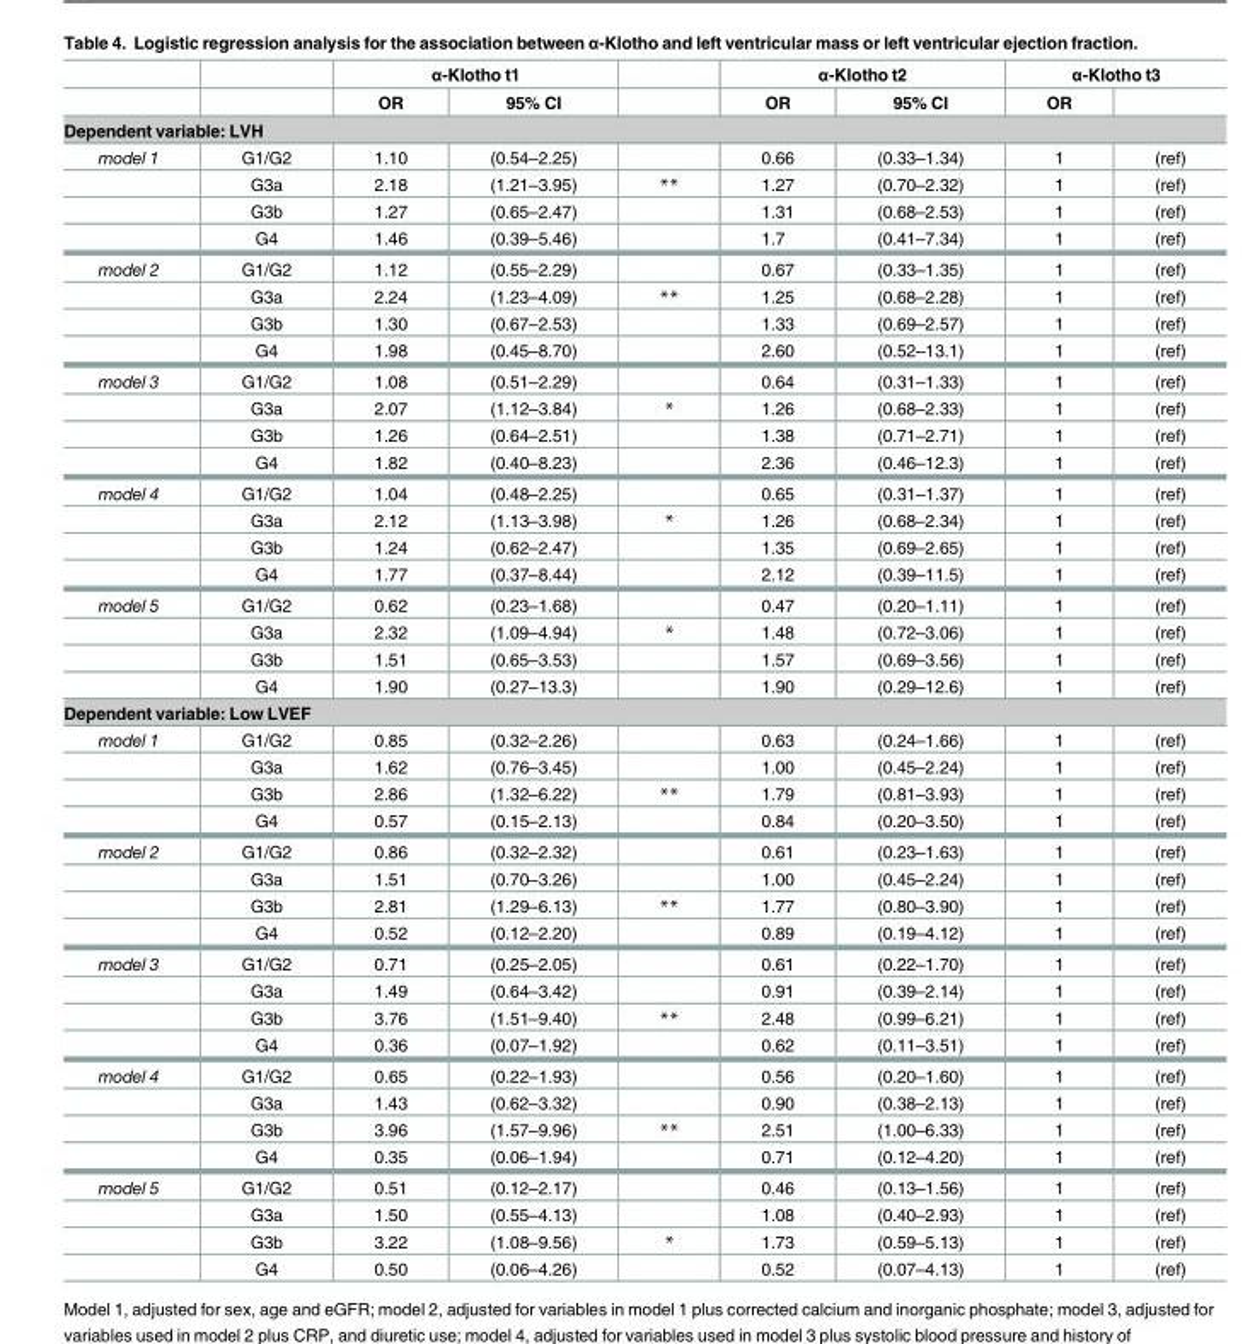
<table><thead><tr><td rowspan="2"></td><td rowspan="2"></td><td colspan="2">α-Klotho t1</td><td rowspan="2"></td><td colspan="2">α-Klotho t2</td><td colspan="2">α-Klotho t3</td></tr><tr><td>OR</td><td>95% CI</td><td>OR</td><td>95% CI</td><td>OR</td><td></td></tr></thead><tbody><tr><td colspan="9">Dependent variable: LVH</td></tr><tr><td rowspan="4">model 1</td><td>G1/G2</td><td>1.10</td><td>(0.54–2.25)</td><td></td><td>0.66</td><td>(0.33–1.34)</td><td>1</td><td>(ref)</td></tr><tr><td>G3a</td><td>2.18</td><td>(1.21–3.95)</td><td>**</td><td>1.27</td><td>(0.70–2.32)</td><td>1</td><td>(ref)</td></tr><tr><td>G3b</td><td>1.27</td><td>(0.65–2.47)</td><td></td><td>1.31</td><td>(0.68–2.53)</td><td>1</td><td>(ref)</td></tr><tr><td>G4</td><td>1.46</td><td>(0.39–5.46)</td><td></td><td>1.7</td><td>(0.41–7.34)</td><td>1</td><td>(ref)</td></tr><tr><td rowspan="4">model 2</td><td>G1/G2</td><td>1.12</td><td>(0.55–2.29)</td><td></td><td>0.67</td><td>(0.33–1.35)</td><td>1</td><td>(ref)</td></tr><tr><td>G3a</td><td>2.24</td><td>(1.23–4.09)</td><td>**</td><td>1.25</td><td>(0.68–2.28)</td><td>1</td><td>(ref)</td></tr><tr><td>G3b</td><td>1.30</td><td>(0.67–2.53)</td><td></td><td>1.33</td><td>(0.69–2.57)</td><td>1</td><td>(ref)</td></tr><tr><td>G4</td><td>1.98</td><td>(0.45–8.70)</td><td></td><td>2.60</td><td>(0.52–13.1)</td><td>1</td><td>(ref)</td></tr><tr><td rowspan="4">model 3</td><td>G1/G2</td><td>1.08</td><td>(0.51–2.29)</td><td></td><td>0.64</td><td>(0.31–1.33)</td><td>1</td><td>(ref)</td></tr><tr><td>G3a</td><td>2.07</td><td>(1.12–3.84)</td><td>*</td><td>1.26</td><td>(0.68–2.33)</td><td>1</td><td>(ref)</td></tr><tr><td>G3b</td><td>1.26</td><td>(0.64–2.51)</td><td></td><td>1.38</td><td>(0.71–2.71)</td><td>1</td><td>(ref)</td></tr><tr><td>G4</td><td>1.82</td><td>(0.40–8.23)</td><td></td><td>2.36</td><td>(0.46–12.3)</td><td>1</td><td>(ref)</td></tr><tr><td rowspan="4">model 4</td><td>G1/G2</td><td>1.04</td><td>(0.48–2.25)</td><td></td><td>0.65</td><td>(0.31–1.37)</td><td>1</td><td>(ref)</td></tr><tr><td>G3a</td><td>2.12</td><td>(1.13–3.98)</td><td>*</td><td>1.26</td><td>(0.68–2.34)</td><td>1</td><td>(ref)</td></tr><tr><td>G3b</td><td>1.24</td><td>(0.62–2.47)</td><td></td><td>1.35</td><td>(0.69–2.65)</td><td>1</td><td>(ref)</td></tr><tr><td>G4</td><td>1.77</td><td>(0.37–8.44)</td><td></td><td>2.12</td><td>(0.39–11.5)</td><td>1</td><td>(ref)</td></tr><tr><td rowspan="4">model 5</td><td>G1/G2</td><td>0.62</td><td>(0.23–1.68)</td><td></td><td>0.47</td><td>(0.20–1.11)</td><td>1</td><td>(ref)</td></tr><tr><td>G3a</td><td>2.32</td><td>(1.09–4.94)</td><td>*</td><td>1.48</td><td>(0.72–3.06)</td><td>1</td><td>(ref)</td></tr><tr><td>G3b</td><td>1.51</td><td>(0.65–3.53)</td><td></td><td>1.57</td><td>(0.69–3.56)</td><td>1</td><td>(ref)</td></tr><tr><td>G4</td><td>1.90</td><td>(0.27–13.3)</td><td></td><td>1.90</td><td>(0.29–12.6)</td><td>1</td><td>(ref)</td></tr><tr><td colspan="9">Dependent variable: Low LVEF</td></tr><tr><td rowspan="4">model 1</td><td>G1/G2</td><td>0.85</td><td>(0.32–2.26)</td><td></td><td>0.63</td><td>(0.24–1.66)</td><td>1</td><td>(ref)</td></tr><tr><td>G3a</td><td>1.62</td><td>(0.76–3.45)</td><td></td><td>1.00</td><td>(0.45–2.24)</td><td>1</td><td>(ref)</td></tr><tr><td>G3b</td><td>2.86</td><td>(1.32–6.22)</td><td>**</td><td>1.79</td><td>(0.81–3.93)</td><td>1</td><td>(ref)</td></tr><tr><td>G4</td><td>0.57</td><td>(0.15–2.13)</td><td></td><td>0.84</td><td>(0.20–3.50)</td><td>1</td><td>(ref)</td></tr><tr><td rowspan="4">model 2</td><td>G1/G2</td><td>0.86</td><td>(0.32–2.32)</td><td></td><td>0.61</td><td>(0.23–1.63)</td><td>1</td><td>(ref)</td></tr><tr><td>G3a</td><td>1.51</td><td>(0.70–3.26)</td><td></td><td>1.00</td><td>(0.45–2.24)</td><td>1</td><td>(ref)</td></tr><tr><td>G3b</td><td>2.81</td><td>(1.29–6.13)</td><td>**</td><td>1.77</td><td>(0.80–3.90)</td><td>1</td><td>(ref)</td></tr><tr><td>G4</td><td>0.52</td><td>(0.12–2.20)</td><td></td><td>0.89</td><td>(0.19–4.12)</td><td>1</td><td>(ref)</td></tr><tr><td rowspan="4">model 3</td><td>G1/G2</td><td>0.71</td><td>(0.25–2.05)</td><td></td><td>0.61</td><td>(0.22–1.70)</td><td>1</td><td>(ref)</td></tr><tr><td>G3a</td><td>1.49</td><td>(0.64–3.42)</td><td></td><td>0.91</td><td>(0.39–2.14)</td><td>1</td><td>(ref)</td></tr><tr><td>G3b</td><td>3.76</td><td>(1.51–9.40)</td><td>**</td><td>2.48</td><td>(0.99–6.21)</td><td>1</td><td>(ref)</td></tr><tr><td>G4</td><td>0.36</td><td>(0.07–1.92)</td><td></td><td>0.62</td><td>(0.11–3.51)</td><td>1</td><td>(ref)</td></tr><tr><td rowspan="4">model 4</td><td>G1/G2</td><td>0.65</td><td>(0.22–1.93)</td><td></td><td>0.56</td><td>(0.20–1.60)</td><td>1</td><td>(ref)</td></tr><tr><td>G3a</td><td>1.43</td><td>(0.62–3.32)</td><td></td><td>0.90</td><td>(0.38–2.13)</td><td>1</td><td>(ref)</td></tr><tr><td>G3b</td><td>3.96</td><td>(1.57–9.96)</td><td>**</td><td>2.51</td><td>(1.00–6.33)</td><td>1</td><td>(ref)</td></tr><tr><td>G4</td><td>0.35</td><td>(0.06–1.94)</td><td></td><td>0.71</td><td>(0.12–4.20)</td><td>1</td><td>(ref)</td></tr><tr><td rowspan="4">model 5</td><td>G1/G2</td><td>0.51</td><td>(0.12–2.17)</td><td></td><td>0.46</td><td>(0.13–1.56)</td><td>1</td><td>(ref)</td></tr><tr><td>G3a</td><td>1.50</td><td>(0.55–4.13)</td><td></td><td>1.08</td><td>(0.40–2.93)</td><td>1</td><td>(ref)</td></tr><tr><td>G3b</td><td>3.22</td><td>(1.08–9.56)</td><td>*</td><td>1.73</td><td>(0.59–5.13)</td><td>1</td><td>(ref)</td></tr><tr><td>G4</td><td>0.50</td><td>(0.06–4.26)</td><td></td><td>0.52</td><td>(0.07–4.13)</td><td>1</td><td>(ref)</td></tr></tbody></table>